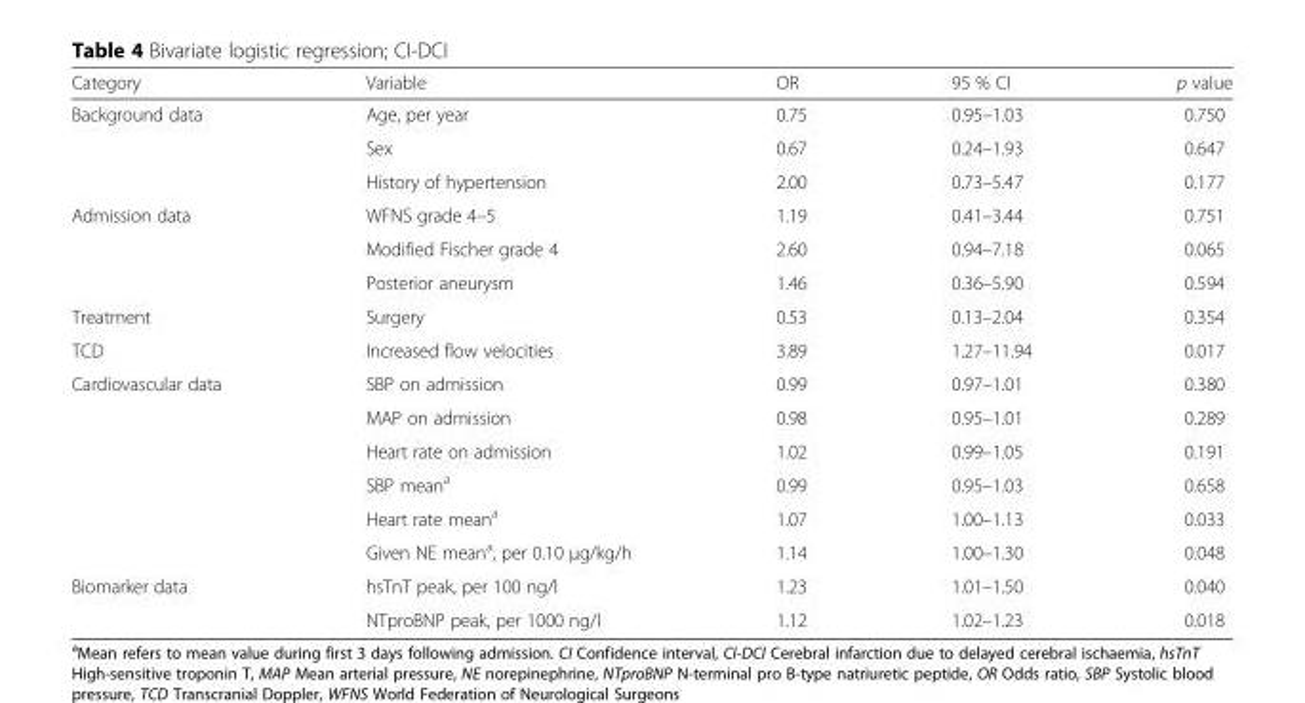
<table><thead><tr><td>Category</td><td>Variable</td><td>OR</td><td>95 % CI</td><td>p value</td></tr></thead><tbody><tr><td rowspan="3">Background data</td><td>Age, per year</td><td>0.75</td><td>0.95–1.03</td><td>0.750</td></tr><tr><td>Sex</td><td>0.67</td><td>0.24–1.93</td><td>0.647</td></tr><tr><td>History of hypertension</td><td>2.00</td><td>0.73–5.47</td><td>0.177</td></tr><tr><td rowspan="3">Admission data</td><td>WFNS grade 4–5</td><td>1.19</td><td>0.41–3.44</td><td>0.751</td></tr><tr><td>Modified Fischer grade 4</td><td>2.60</td><td>0.94–7.18</td><td>0.065</td></tr><tr><td>Posterior aneurysm</td><td>1.46</td><td>0.36–5.90</td><td>0.594</td></tr><tr><td>Treatment</td><td>Surgery</td><td>0.53</td><td>0.13–2.04</td><td>0.354</td></tr><tr><td>TCD</td><td>Increased flow velocities</td><td>3.89</td><td>1.27–11.94</td><td>0.017</td></tr><tr><td rowspan="6">Cardiovascular data</td><td>SBP on admission</td><td>0.99</td><td>0.97–1.01</td><td>0.380</td></tr><tr><td>MAP on admission</td><td>0.98</td><td>0.95–1.01</td><td>0.289</td></tr><tr><td>Heart rate on admission</td><td>1.02</td><td>0.99–1.05</td><td>0.191</td></tr><tr><td>SBP mean<sup>a</sup></td><td>0.99</td><td>0.95–1.03</td><td>0.658</td></tr><tr><td>Heart rate mean<sup>a</sup></td><td>1.07</td><td>1.00–1.13</td><td>0.033</td></tr><tr><td>Given NE mean<sup>a</sup>, per 0.10 μg/kg/h</td><td>1.14</td><td>1.00–1.30</td><td>0.048</td></tr><tr><td rowspan="2">Biomarker data</td><td>hsTnT peak, per 100 ng/l</td><td>1.23</td><td>1.01–1.50</td><td>0.040</td></tr><tr><td>NTproBNP peak, per 1000 ng/l</td><td>1.12</td><td>1.02–1.23</td><td>0.018</td></tr></tbody></table>